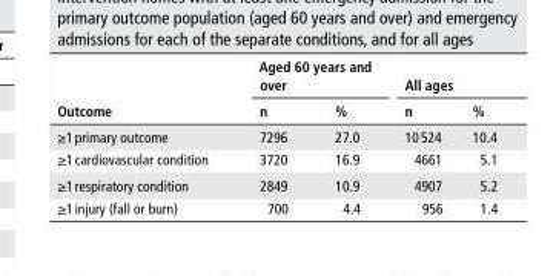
<table><thead><tr><td rowspan="2">outcome</td><td colspan="2">Aged 60 years and over</td><td colspan="2">All ages</td></tr><tr><td>n</td><td>%</td><td>n</td><td>%</td></tr></thead><tbody><tr><td>≥1 primary outcome</td><td>7296</td><td>27.0</td><td>10 524</td><td>10.4</td></tr><tr><td>≥1 cardiovascular condition</td><td>3720</td><td>16.9</td><td>4661</td><td>5.1</td></tr><tr><td>≥1 respiratory condition</td><td>2849</td><td>10.9</td><td>4907</td><td>5.2</td></tr><tr><td>≥1 injury (fall or burn)</td><td>700</td><td>4.4</td><td>956</td><td>1.4</td></tr></tbody></table>